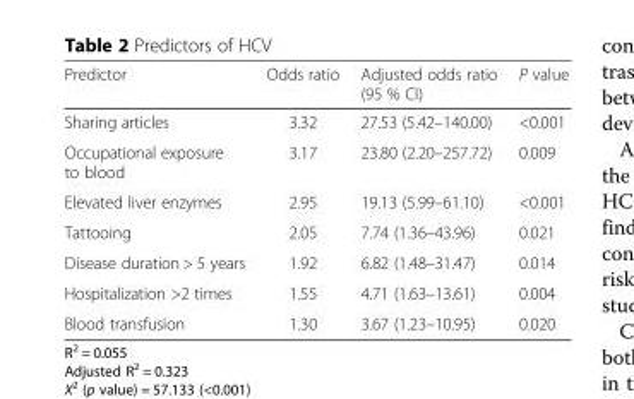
<table><thead><tr><td>Predictor</td><td>Odds ratio</td><td>Adjusted odds ratio (95 % CI)</td><td>P value</td></tr></thead><tbody><tr><td>Sharing articles</td><td>3.32</td><td>27.53 (5.42–140.00)</td><td>&lt;0.001</td></tr><tr><td>Occupational exposure to blood</td><td>3.17</td><td>23.80 (2.20–257.72)</td><td>0.009</td></tr><tr><td>Elevated liver enzymes</td><td>2.95</td><td>19.13 (5.99–61.10)</td><td>&lt;0.001</td></tr><tr><td>Tattooing</td><td>2.05</td><td>7.74 (1.36–43.96)</td><td>0.021</td></tr><tr><td>Disease duration &gt; 5 years</td><td>1.92</td><td>6.82 (1.48–31.47)</td><td>0.014</td></tr><tr><td>Hospitalization &gt;2 times</td><td>1.55</td><td>4.71 (1.63–13.61)</td><td>0.004</td></tr><tr><td>Blood transfusion</td><td>1.30</td><td>3.67 (1.23–10.95)</td><td>0.020</td></tr></tbody></table>